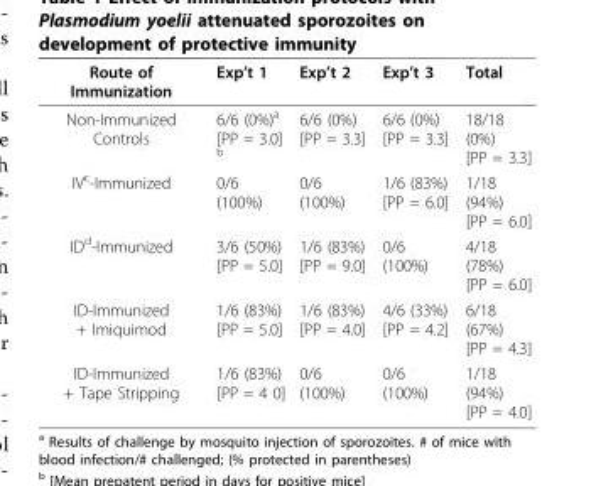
<table><thead><tr><td>Route of Immunization</td><td>Exp’t 1</td><td>Exp’t 2</td><td>Exp’t 3</td><td>Total</td></tr></thead><tbody><tr><td>Non-Immunized Controls</td><td>6/6 (0%)<sup>a</sup> [PP = 3.0] <sup>b</sup></td><td>6/6 (0%) [PP = 3.3]</td><td>6/6 (0%) [PP = 3.3]</td><td>18/18 (0%) [PP = 3.3]</td></tr><tr><td>IV<sup>c</sup>-Immunized</td><td>0/6 (100%)</td><td>0/6 (100%)</td><td>1/6 (83%) [PP = 6.0]</td><td>1/18 (94%) [PP = 6.0]</td></tr><tr><td>ID<sup>d</sup>-Immunized</td><td>3/6 (50%) [PP = 5.0]</td><td>1/6 (83%) [PP = 9.0]</td><td>0/6 (100%)</td><td>4/18 (78%) [PP = 6.0]</td></tr><tr><td>ID-Immunized + Imiquimod</td><td>1/6 (83%) [PP = 5.0]</td><td>1/6 (83%) [PP = 4.0]</td><td>4/6 (33%) [PP = 4.2]</td><td>6/18 (67%) [PP = 4.3]</td></tr><tr><td>ID-Immunized + Tape Stripping</td><td>1/6 (83%) [PP = 4 0]</td><td>0/6 (100%)</td><td>0/6 (100%)</td><td>1/18 (94%) [PP = 4.0]</td></tr></tbody></table>